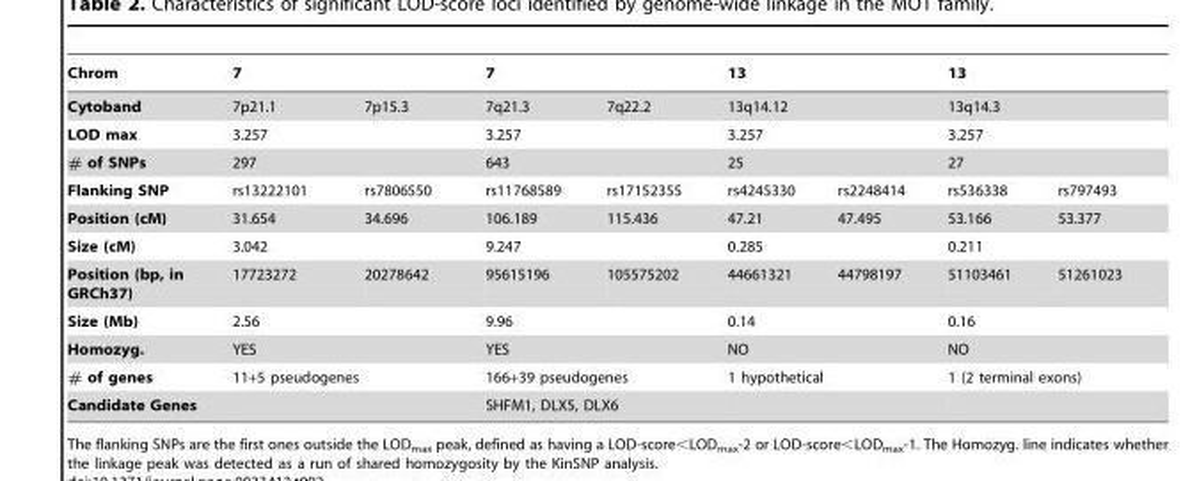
<table><thead><tr><td>Chrom</td><td colspan="2">7</td><td colspan="2">7</td><td colspan="2">13</td><td colspan="2">13</td></tr></thead><tbody><tr><td>Cytoband</td><td>7p21.1</td><td>7p15.3</td><td>7q21.3</td><td>7q22.2</td><td colspan="2">13q14.12</td><td colspan="2">13q14.3</td></tr><tr><td>LOD max</td><td colspan="2">3.257</td><td colspan="2">3.257</td><td colspan="2">3.257</td><td colspan="2">3.257</td></tr><tr><td># of SNPs</td><td colspan="2">297</td><td colspan="2">643</td><td colspan="2">25</td><td colspan="2">27</td></tr><tr><td>Flanking SNP</td><td>rs13222101</td><td>rs7806550</td><td>rs11768589</td><td>rs17152355</td><td>rs4245330</td><td>rs2248414</td><td>rs536338</td><td>rs797493</td></tr><tr><td>Position (cM)</td><td>31.654</td><td>34.696</td><td>106.189</td><td>115.436</td><td>47.21</td><td>47.495</td><td>53.166</td><td>53.377</td></tr><tr><td>Size (cM)</td><td colspan="2">3.042</td><td colspan="2">9.247</td><td colspan="2">0.285</td><td colspan="2">0.211</td></tr><tr><td>Position (bp, in GRCh37)</td><td>17723272</td><td>20278642</td><td>95615196</td><td>105575202</td><td>44661321</td><td>44798197</td><td>51103461</td><td>51261023</td></tr><tr><td>Size (Mb)</td><td colspan="2">2.56</td><td colspan="2">9.96</td><td colspan="2">0.14</td><td colspan="2">0.16</td></tr><tr><td>Homozyg.</td><td colspan="2">YES</td><td colspan="2">YES</td><td colspan="2">NO</td><td colspan="2">NO</td></tr><tr><td># of genes</td><td colspan="2">11+5 pseudogenes</td><td colspan="2">166+39 pseudogenes</td><td colspan="2">1 hypothetical</td><td colspan="2">1 (2 terminal exons)</td></tr><tr><td>Candidate Genes</td><td colspan="2"></td><td colspan="2">SHFM1, DLX5, DLX6</td><td colspan="2"></td><td colspan="2"></td></tr></tbody></table>